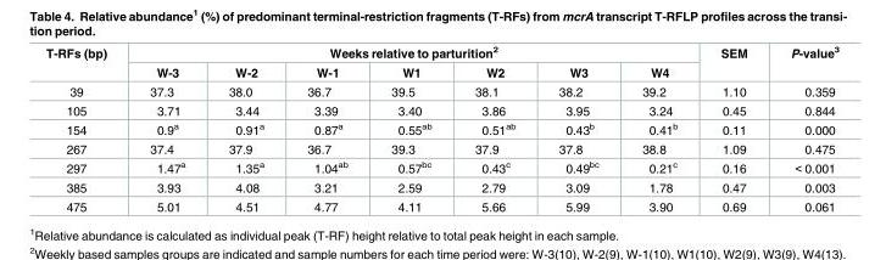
<table><thead><tr><td rowspan="2">T-RFs (bp)</td><td colspan="7">Weeks relative to parturition<sup>2</sup></td><td rowspan="2">SEM</td><td rowspan="2">P-value<sup>3</sup></td></tr><tr><td>W-3</td><td>W-2</td><td>W-1</td><td>W1</td><td>W2</td><td>W3</td><td>W4</td></tr></thead><tbody><tr><td>39</td><td>37.3</td><td>38.0</td><td>36.7</td><td>39.5</td><td>38.1</td><td>38.2</td><td>39.2</td><td>1.10</td><td>0.359</td></tr><tr><td>105</td><td>3.71</td><td>3.44</td><td>3.39</td><td>3.40</td><td>3.86</td><td>3.95</td><td>3.24</td><td>0.45</td><td>0.844</td></tr><tr><td>154</td><td>0.9<sup>a</sup></td><td>0.91<sup>a</sup></td><td>0.87<sup>a</sup></td><td>0.55<sup>ab</sup></td><td>0.51<sup>ab</sup></td><td>0.43<sup>b</sup></td><td>0.41<sup>b</sup></td><td>0.11</td><td>0.000</td></tr><tr><td>267</td><td>37.4</td><td>37.9</td><td>36.7</td><td>39.3</td><td>37.9</td><td>37.8</td><td>38.8</td><td>1.09</td><td>0.475</td></tr><tr><td>297</td><td>1.47<sup>a</sup></td><td>1.35<sup>a</sup></td><td>1.04<sup>ab</sup></td><td>0.57<sup>bc</sup></td><td>0.43<sup>c</sup></td><td>0.49<sup>bc</sup></td><td>0.21<sup>c</sup></td><td>0.16</td><td>&lt; 0.001</td></tr><tr><td>385</td><td>3.93</td><td>4.08</td><td>3.21</td><td>2.59</td><td>2.79</td><td>3.09</td><td>1.78</td><td>0.47</td><td>0.003</td></tr><tr><td>475</td><td>5.01</td><td>4.51</td><td>4.77</td><td>4.11</td><td>5.66</td><td>5.99</td><td>3.90</td><td>0.69</td><td>0.061</td></tr></tbody></table>